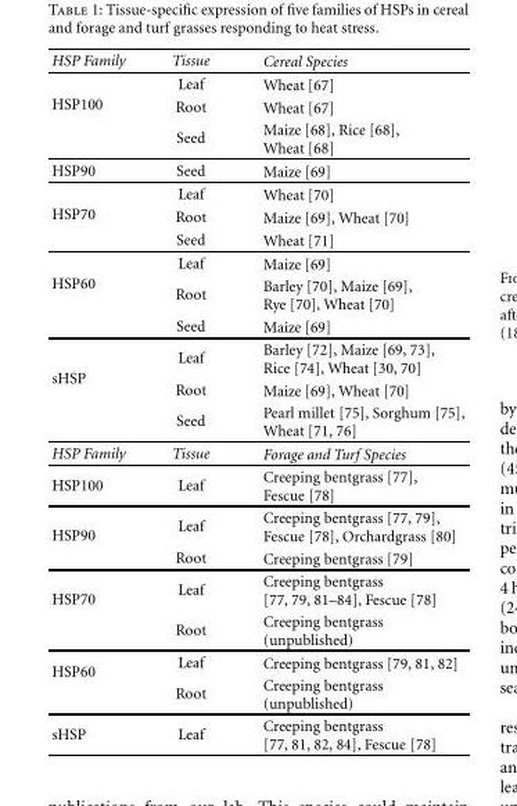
<table><thead><tr><td>HSP Family</td><td>Tissue</td><td>Cereal Species</td></tr></thead><tbody><tr><td rowspan="3">HSP100</td><td>Leaf</td><td>Wheat [67]</td></tr><tr><td>Root</td><td>Wheat [67]</td></tr><tr><td>Seed</td><td>Maize [68], Rice [68], Wheat [68]</td></tr><tr><td>HSP90</td><td>Seed</td><td>Maize [69]</td></tr><tr><td rowspan="3">HSP70</td><td>Leaf</td><td>Wheat [70]</td></tr><tr><td>Root</td><td>Maize [69], Wheat [70]</td></tr><tr><td>Seed</td><td>Wheat [71]</td></tr><tr><td rowspan="3">HSP60</td><td>Leaf</td><td>Maize [69]</td></tr><tr><td>Root</td><td>Barley [70], Maize [69], Rye [70], Wheat [70]</td></tr><tr><td>Seed</td><td>Maize [69]</td></tr><tr><td rowspan="3">sHSP</td><td>Leaf</td><td>Barley [72], Maize [69, 73], Rice [74], Wheat [30, 70]</td></tr><tr><td>Root</td><td>Maize [69], Wheat [70]</td></tr><tr><td>Seed</td><td>Pearl millet [75], Sorghum [75], Wheat [71, 76]</td></tr><tr><td>HSP Family</td><td>Tissue</td><td>Forage and Turf Species</td></tr><tr><td>HSP100</td><td>Leaf</td><td>Creeping bentgrass [77], Fescue [78]</td></tr><tr><td rowspan="2">HSP90</td><td>Leaf</td><td>Creeping bentgrass [77, 79], Fescue [78], Orchardgrass [80]</td></tr><tr><td>Root</td><td>Creeping bentgrass [79]</td></tr><tr><td rowspan="2">HSP70</td><td>Leaf</td><td>Creeping bentgrass [77, 79, 81–84], Fescue [78]</td></tr><tr><td>Root</td><td>Creeping bentgrass (unpublished)</td></tr><tr><td rowspan="2">HSP60</td><td>Leaf</td><td>Creeping bentgrass [79, 81, 82]</td></tr><tr><td>Root</td><td>Creeping bentgrass (unpublished)</td></tr><tr><td>sHSP</td><td>Leaf</td><td>Creeping bentgrass [77, 81, 82, 84], Fescue [78]</td></tr></tbody></table>